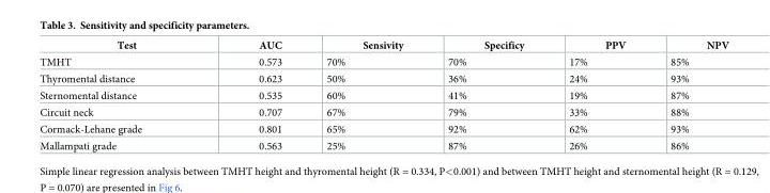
<table><thead><tr><td>Test</td><td>AUC</td><td>Sensivity</td><td>Specificy</td><td>PPV</td><td>NPV</td></tr></thead><tbody><tr><td>TMHT</td><td>0.573</td><td>70%</td><td>70%</td><td>17%</td><td>85%</td></tr><tr><td>Thyromental distance</td><td>0.623</td><td>50%</td><td>36%</td><td>24%</td><td>93%</td></tr><tr><td>Sternomental distance</td><td>0.535</td><td>60%</td><td>41%</td><td>19%</td><td>87%</td></tr><tr><td>Circuit neck</td><td>0.707</td><td>67%</td><td>79%</td><td>33%</td><td>88%</td></tr><tr><td>Cormack-Lehane grade</td><td>0.801</td><td>65%</td><td>92%</td><td>62%</td><td>93%</td></tr><tr><td>Mallampati grade</td><td>0.563</td><td>25%</td><td>87%</td><td>26%</td><td>86%</td></tr></tbody></table>